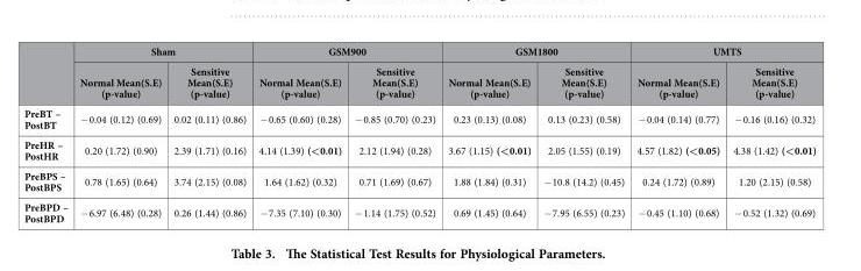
<table><thead><tr><td rowspan="2"></td><td colspan="2">Sham</td><td colspan="2">GSM900</td><td colspan="2">GSM1800</td><td colspan="2">UMTS</td></tr><tr><td>Normal Mean(S.E) (p-value)</td><td>Sensitive Mean(S.E) (p-value)</td><td>Normal Mean(S.E) (p-value)</td><td>Sensitive Mean(S.E) (p-value)</td><td>Normal Mean(S.E) (p-value)</td><td>Sensitive Mean(S.E) (p-value)</td><td>Normal Mean(S.E) (p-value)</td><td>Sensitive Mean(S.E) (p-value)</td></tr></thead><tbody><tr><td>PreBT – PostBT</td><td>− 0.04 (0.12) (0.69)</td><td>0.02 (0.11) (0.86)</td><td>− 0.65 (0.60) (0.28)</td><td>− 0.85 (0.70) (0.23)</td><td>0.23 (0.13) (0.08)</td><td>0.13 (0.23) (0.58)</td><td>− 0.04 (0.14) (0.77)</td><td>− 0.16 (0.16) (0.32)</td></tr><tr><td>PreHR – PostHR</td><td>0.20 (1.72) (0.90)</td><td>2.39 (1.71) (0.16)</td><td>4.14 (1.39) (&lt;0.01)</td><td>2.12 (1.94) (0.28)</td><td>3.67 (1.15) (&lt;0.01)</td><td>2.05 (1.55) (0.19)</td><td>4.57 (1.82) (&lt;0.05)</td><td>4.38 (1.42) (&lt;0.01)</td></tr><tr><td>PreBPS – PostBPS</td><td>0.78 (1.65) (0.64)</td><td>3.74 (2.15) (0.08)</td><td>1.64 (1.62) (0.32)</td><td>0.71 (1.69) (0.67)</td><td>1.88 (1.84) (0.31)</td><td>− 10.8 (14.2) (0.45)</td><td>0.24 (1.72) (0.89)</td><td>1.20 (2.15) (0.58)</td></tr><tr><td>PreBPD – PostBPD</td><td>− 6.97 (6.48) (0.28)</td><td>0.26 (1.44) (0.86)</td><td>− 7.35 (7.10) (0.30)</td><td>− 1.14 (1.75) (0.52)</td><td>0.69 (1.45) (0.64)</td><td>− 7.95 (6.55) (0.23)</td><td>− 0.45 (1.10) (0.68)</td><td>− 0.52 (1.32) (0.69)</td></tr></tbody></table>